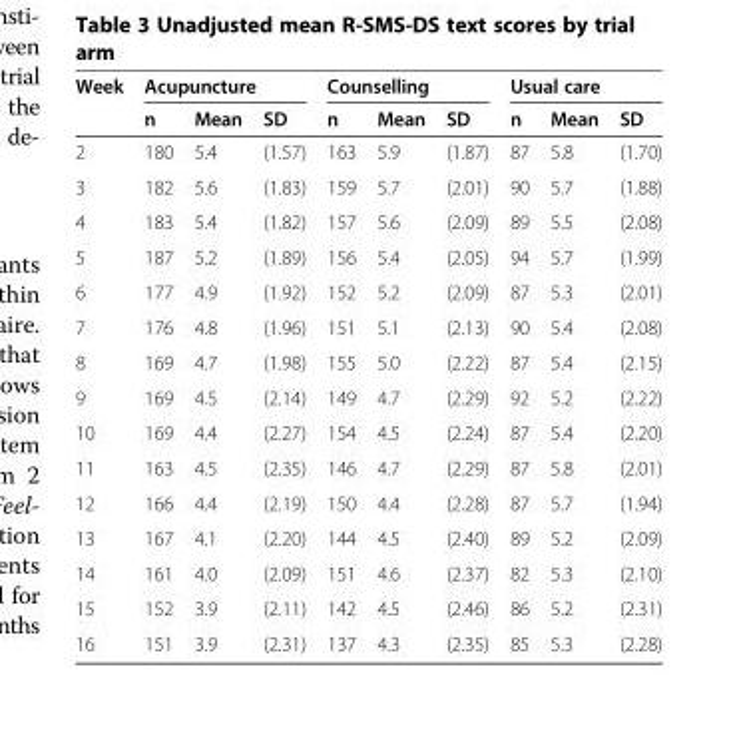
<table><thead><tr><td rowspan="2">Week</td><td colspan="3">Acupuncture</td><td colspan="3">Counselling</td><td colspan="3">Usual care</td></tr><tr><td>n</td><td>Mean</td><td>SD</td><td>n</td><td>Mean</td><td>SD</td><td>n</td><td>Mean</td><td>SD</td></tr></thead><tbody><tr><td>2</td><td>180</td><td>5.4</td><td>(1.57)</td><td>163</td><td>5.9</td><td>(1.87)</td><td>87</td><td>5.8</td><td>(1.70)</td></tr><tr><td>3</td><td>182</td><td>5.6</td><td>(1.83)</td><td>159</td><td>5.7</td><td>(2.01)</td><td>90</td><td>5.7</td><td>(1.88)</td></tr><tr><td>4</td><td>183</td><td>5.4</td><td>(1.82)</td><td>157</td><td>5.6</td><td>(2.09)</td><td>89</td><td>5.5</td><td>(2.08)</td></tr><tr><td>5</td><td>187</td><td>5.2</td><td>(1.89)</td><td>156</td><td>5.4</td><td>(2.05)</td><td>94</td><td>5.7</td><td>(1.99)</td></tr><tr><td>6</td><td>177</td><td>4.9</td><td>(1.92)</td><td>152</td><td>5.2</td><td>(2.09)</td><td>87</td><td>5.3</td><td>(2.01)</td></tr><tr><td>7</td><td>176</td><td>4.8</td><td>(1.96)</td><td>151</td><td>5.1</td><td>(2.13)</td><td>90</td><td>5.4</td><td>(2.08)</td></tr><tr><td>8</td><td>169</td><td>4.7</td><td>(1.98)</td><td>155</td><td>5.0</td><td>(2.22)</td><td>87</td><td>5.4</td><td>(2.15)</td></tr><tr><td>9</td><td>169</td><td>4.5</td><td>(2.14)</td><td>149</td><td>4.7</td><td>(2.29)</td><td>92</td><td>5.2</td><td>(2.22)</td></tr><tr><td>10</td><td>169</td><td>4.4</td><td>(2.27)</td><td>154</td><td>4.5</td><td>(2.24)</td><td>87</td><td>5.4</td><td>(2.20)</td></tr><tr><td>11</td><td>163</td><td>4.5</td><td>(2.35)</td><td>146</td><td>4.7</td><td>(2.29)</td><td>87</td><td>5.8</td><td>(2.01)</td></tr><tr><td>12</td><td>166</td><td>4.4</td><td>(2.19)</td><td>150</td><td>4.4</td><td>(2.28)</td><td>87</td><td>5.7</td><td>(1.94)</td></tr><tr><td>13</td><td>167</td><td>4.1</td><td>(2.20)</td><td>144</td><td>4.5</td><td>(2.40)</td><td>89</td><td>5.2</td><td>(2.09)</td></tr><tr><td>14</td><td>161</td><td>4.0</td><td>(2.09)</td><td>151</td><td>4.6</td><td>(2.37)</td><td>82</td><td>5.3</td><td>(2.10)</td></tr><tr><td>15</td><td>152</td><td>3.9</td><td>(2.11)</td><td>142</td><td>4.5</td><td>(2.46)</td><td>86</td><td>5.2</td><td>(2.31)</td></tr><tr><td>16</td><td>151</td><td>3.9</td><td>(2.31)</td><td>137</td><td>4.3</td><td>(2.35)</td><td>85</td><td>5.3</td><td>(2.28)</td></tr></tbody></table>